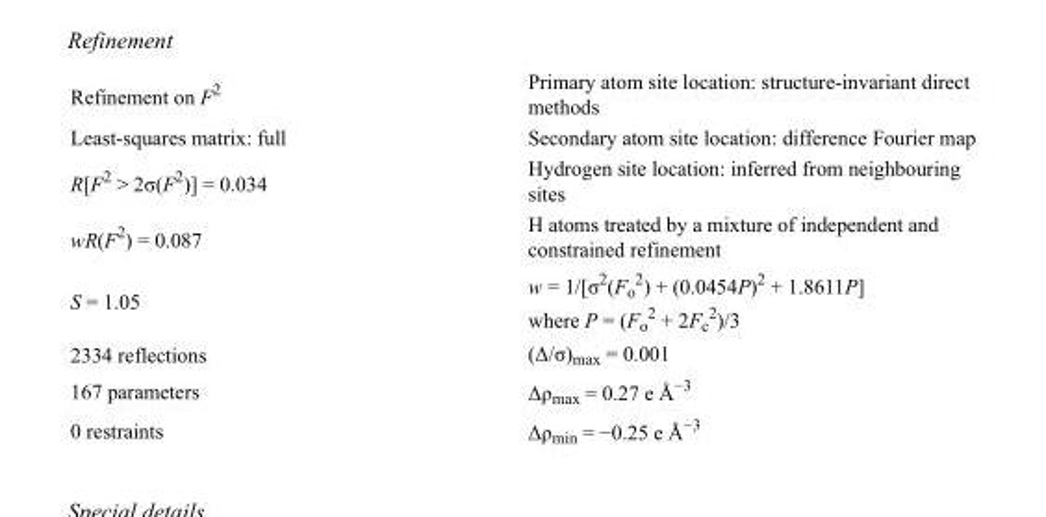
<table><tbody><tr><td>Refinement on F<sup>2</sup></td><td>Primary atom site location: structure-invariant direct methods</td></tr><tr><td>Least-squares matrix: full</td><td>Secondary atom site location: difference Fourier map</td></tr><tr><td>R[F<sup>2</sup> &gt; 2σ(F<sup>2</sup>)] = 0.034</td><td>Hydrogen site location: inferred from neighbouring sites</td></tr><tr><td>wR(F<sup>2</sup>) = 0.087</td><td>H atoms treated by a mixture of independent and constrained refinement</td></tr><tr><td>S = 1.05</td><td>w = 1/[σ<sup>2</sup>(F<sub>o</sub> <sup>2</sup>) + (0.0454P)<sup>2</sup> + 1.8611P] where P = (F<sub>o</sub> <sup>2</sup> + 2F<sub>c</sub> <sup>2</sup>)/3</td></tr><tr><td>2334 reflections</td><td>(Δ/σ)<sub>max</sub> = 0.001</td></tr><tr><td>167 parameters</td><td>Δρ<sub>max</sub> = 0.27 e Å<sup>−3</sup></td></tr><tr><td>0 restraints</td><td>Δρ<sub>min</sub> = −0.25 e Å<sup>−3</sup></td></tr></tbody></table>